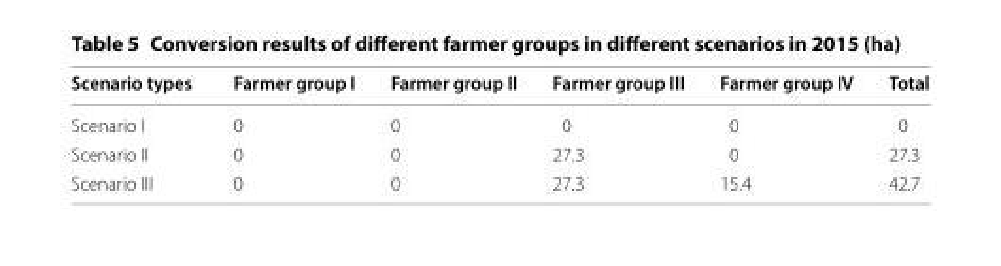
<table><thead><tr><td>Scenario types</td><td>Farmer group I</td><td>Farmer group II</td><td>Farmer group III</td><td>Farmer group IV</td><td>Total</td></tr></thead><tbody><tr><td>Scenario I</td><td>0</td><td>0</td><td>0</td><td>0</td><td>0</td></tr><tr><td>Scenario II</td><td>0</td><td>0</td><td>27.3</td><td>0</td><td>27.3</td></tr><tr><td>Scenario III</td><td>0</td><td>0</td><td>27.3</td><td>15.4</td><td>42.7</td></tr></tbody></table>